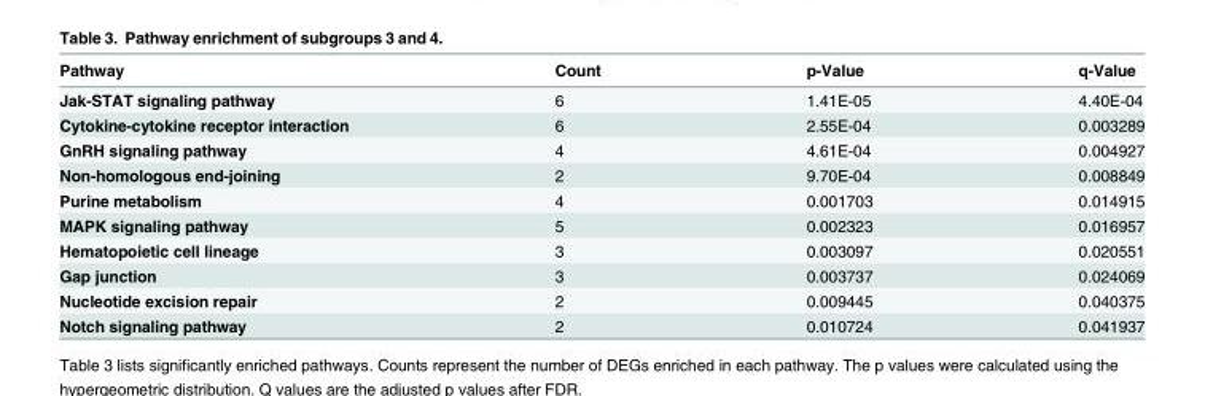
<table><thead><tr><td>Pathway</td><td>Count</td><td>p-Value</td><td>q-Value</td></tr></thead><tbody><tr><td>Jak-STAT signaling pathway</td><td>6</td><td>1.41E-05</td><td>4.40E-04</td></tr><tr><td>Cytokine-cytokine receptor interaction</td><td>6</td><td>2.55E-04</td><td>0.003289</td></tr><tr><td>GnRH signaling pathway</td><td>4</td><td>4.61E-04</td><td>0.004927</td></tr><tr><td>Non-homologous end-joining</td><td>2</td><td>9.70E-04</td><td>0.008849</td></tr><tr><td>Purine metabolism</td><td>4</td><td>0.001703</td><td>0.014915</td></tr><tr><td>MAPK signaling pathway</td><td>5</td><td>0.002323</td><td>0.016957</td></tr><tr><td>Hematopoietic cell lineage</td><td>3</td><td>0.003097</td><td>0.020551</td></tr><tr><td>Gap junction</td><td>3</td><td>0.003737</td><td>0.024069</td></tr><tr><td>Nucleotide excision repair</td><td>2</td><td>0.009445</td><td>0.040375</td></tr><tr><td>Notch signaling pathway</td><td>2</td><td>0.010724</td><td>0.041937</td></tr></tbody></table>